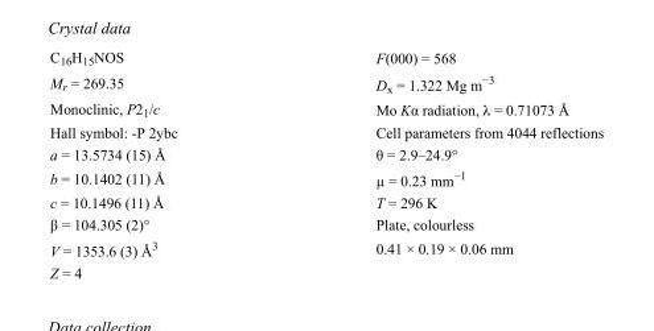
<table><tbody><tr><td>C<sub>16</sub>H<sub>15</sub>NOS</td><td>F(000) = 568</td></tr><tr><td>M<sub>r</sub> = 269.35</td><td>D<sub>x</sub> = 1.322 Mg m<sup>−3</sup></td></tr><tr><td>Monoclinic, P2<sub>1</sub>/c</td><td>Mo Kα radiation, λ = 0.71073 Å</td></tr><tr><td>Hall symbol: -P 2ybc</td><td>Cell parameters from 4044 reflections</td></tr><tr><td>a = 13.5734 (15) Å</td><td>θ = 2.9–24.9°</td></tr><tr><td>b = 10.1402 (11) Å</td><td>µ = 0.23 mm<sup>−1</sup></td></tr><tr><td>c = 10.1496 (11) Å</td><td>T = 296 K</td></tr><tr><td>β = 104.305 (2)°</td><td>Plate, colourless</td></tr><tr><td>V = 1353.6 (3) Å<sup>3</sup></td><td>0.41 × 0.19 × 0.06 mm</td></tr><tr><td>Z = 4</td><td></td></tr></tbody></table>